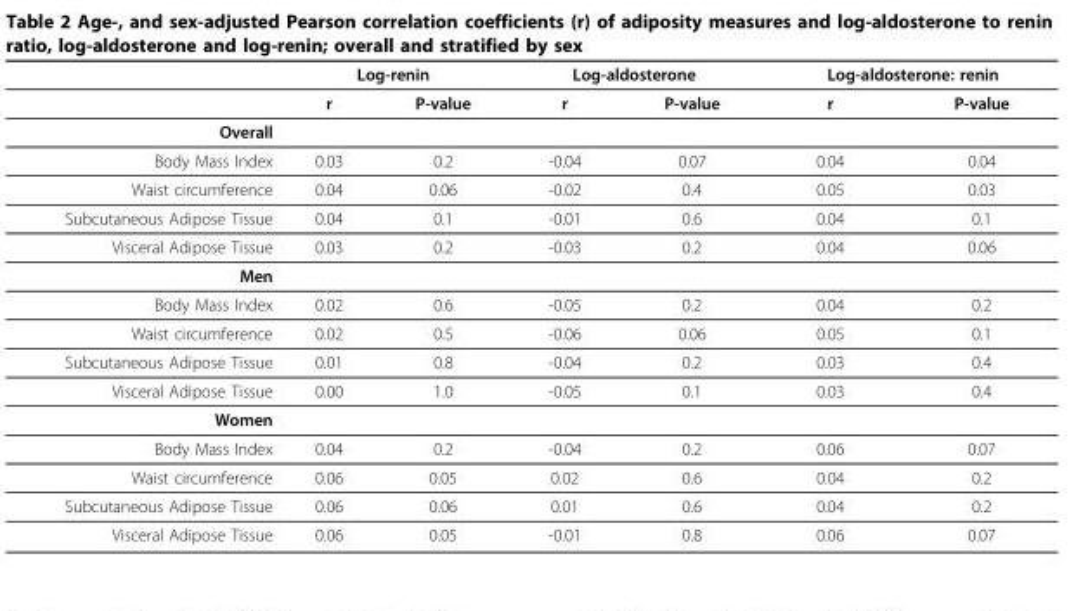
<table><thead><tr><td rowspan="2"></td><td colspan="2">Log-renin</td><td colspan="2">Log-aldosterone</td><td colspan="2">Log-aldosterone: renin</td></tr><tr><td>r</td><td>P-value</td><td>r</td><td>P-value</td><td>r</td><td>P-value</td></tr></thead><tbody><tr><td colspan="7">Overall</td></tr><tr><td>Body Mass Index</td><td>0.03</td><td>0.2</td><td>-0.04</td><td>0.07</td><td>0.04</td><td>0.04</td></tr><tr><td>Waist circumference</td><td>0.04</td><td>0.06</td><td>-0.02</td><td>0.4</td><td>0.05</td><td>0.03</td></tr><tr><td>Subcutaneous Adipose Tissue</td><td>0.04</td><td>0.1</td><td>-0.01</td><td>0.6</td><td>0.04</td><td>0.1</td></tr><tr><td>Visceral Adipose Tissue</td><td>0.03</td><td>0.2</td><td>-0.03</td><td>0.2</td><td>0.04</td><td>0.06</td></tr><tr><td colspan="7">Men</td></tr><tr><td>Body Mass Index</td><td>0.02</td><td>0.6</td><td>-0.05</td><td>0.2</td><td>0.04</td><td>0.2</td></tr><tr><td>Waist circumference</td><td>0.02</td><td>0.5</td><td>-0.06</td><td>0.06</td><td>0.05</td><td>0.1</td></tr><tr><td>Subcutaneous Adipose Tissue</td><td>0.01</td><td>0.8</td><td>-0.04</td><td>0.2</td><td>0.03</td><td>0.4</td></tr><tr><td>Visceral Adipose Tissue</td><td>0.00</td><td>1.0</td><td>-0.05</td><td>0.1</td><td>0.03</td><td>0.4</td></tr><tr><td colspan="7">Women</td></tr><tr><td>Body Mass Index</td><td>0.04</td><td>0.2</td><td>-0.04</td><td>0.2</td><td>0.06</td><td>0.07</td></tr><tr><td>Waist circumference</td><td>0.06</td><td>0.05</td><td>0.02</td><td>0.6</td><td>0.04</td><td>0.2</td></tr><tr><td>Subcutaneous Adipose Tissue</td><td>0.06</td><td>0.06</td><td>0.01</td><td>0.6</td><td>0.04</td><td>0.2</td></tr><tr><td>Visceral Adipose Tissue</td><td>0.06</td><td>0.05</td><td>-0.01</td><td>0.8</td><td>0.06</td><td>0.07</td></tr></tbody></table>